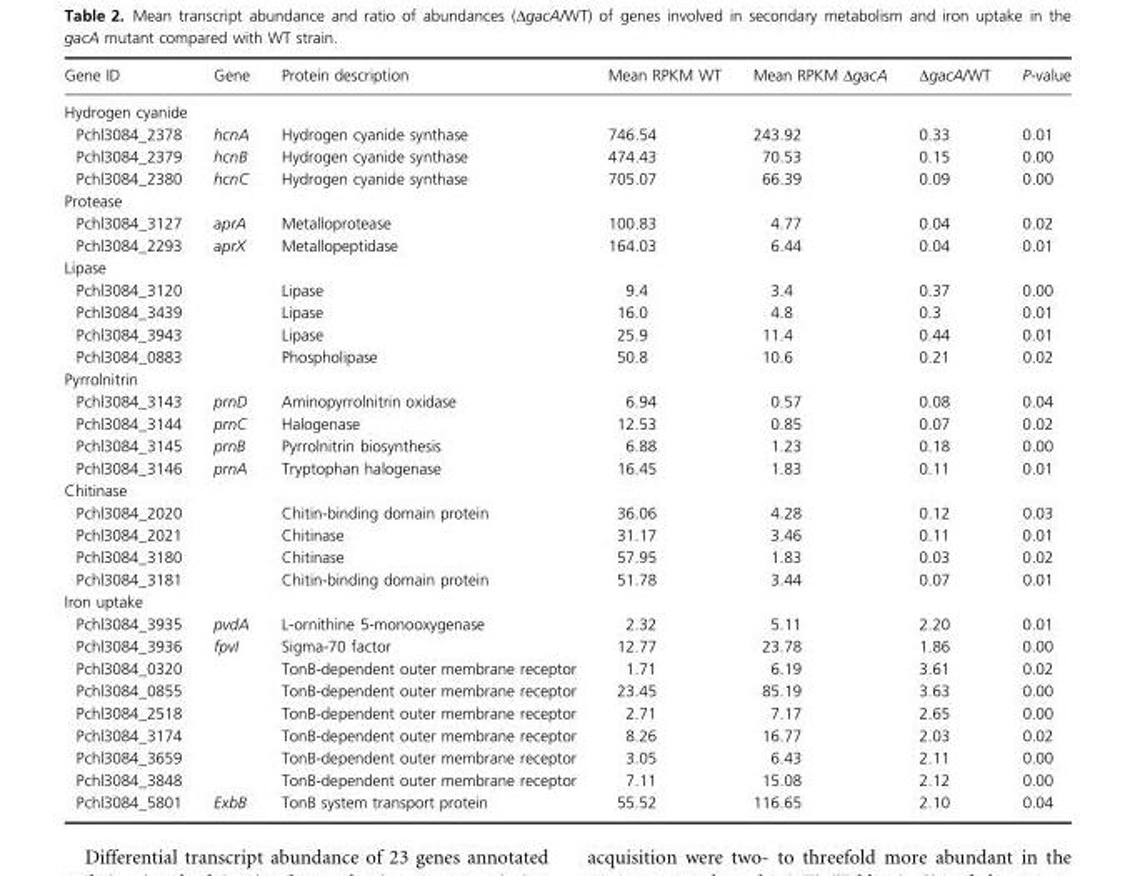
<table><thead><tr><td>Gene ID</td><td>Gene</td><td>Protein description</td><td>Mean RPKM WT</td><td>Mean RPKM ΔgacA</td><td>ΔgacA/WT</td><td>P-value</td></tr></thead><tbody><tr><td colspan="7">Hydrogen cyanide</td></tr><tr><td>Pchl3084_2378</td><td>hcnA</td><td>Hydrogen cyanide synthase</td><td>746.54</td><td>243.92</td><td>0.33</td><td>0.01</td></tr><tr><td>Pchl3084_2379</td><td>hcnB</td><td>Hydrogen cyanide synthase</td><td>474.43</td><td>70.53</td><td>0.15</td><td>0.00</td></tr><tr><td>Pchl3084_2380</td><td>hcnC</td><td>Hydrogen cyanide synthase</td><td>705.07</td><td>66.39</td><td>0.09</td><td>0.00</td></tr><tr><td colspan="7">Protease</td></tr><tr><td>Pchl3084_3127</td><td>aprA</td><td>Metalloprotease</td><td>100.83</td><td>4.77</td><td>0.04</td><td>0.02</td></tr><tr><td>Pchl3084_2293</td><td>aprX</td><td>Metallopeptidase</td><td>164.03</td><td>6.44</td><td>0.04</td><td>0.01</td></tr><tr><td colspan="7">Lipase</td></tr><tr><td>Pchl3084_3120</td><td></td><td>Lipase</td><td>9.4</td><td>3.4</td><td>0.37</td><td>0.00</td></tr><tr><td>Pchl3084_3439</td><td></td><td>Lipase</td><td>16.0</td><td>4.8</td><td>0.3</td><td>0.01</td></tr><tr><td>Pchl3084_3943</td><td></td><td>Lipase</td><td>25.9</td><td>11.4</td><td>0.44</td><td>0.01</td></tr><tr><td>Pchl3084_0883</td><td></td><td>Phospholipase</td><td>50.8</td><td>10.6</td><td>0.21</td><td>0.02</td></tr><tr><td colspan="7">Pyrrolnitrin</td></tr><tr><td>Pchl3084_3143</td><td>prnD</td><td>Aminopyrrolnitrin oxidase</td><td>6.94</td><td>0.57</td><td>0.08</td><td>0.04</td></tr><tr><td>Pchl3084_3144</td><td>prnC</td><td>Halogenase</td><td>12.53</td><td>0.85</td><td>0.07</td><td>0.02</td></tr><tr><td>Pchl3084_3145</td><td>prnB</td><td>Pyrrolnitrin biosynthesis</td><td>6.88</td><td>1.23</td><td>0.18</td><td>0.00</td></tr><tr><td>Pchl3084_3146</td><td>prnA</td><td>Tryptophan halogenase</td><td>16.45</td><td>1.83</td><td>0.11</td><td>0.01</td></tr><tr><td colspan="7">Chitinase</td></tr><tr><td>Pchl3084_2020</td><td></td><td>Chitin-binding domain protein</td><td>36.06</td><td>4.28</td><td>0.12</td><td>0.03</td></tr><tr><td>Pchl3084_2021</td><td></td><td>Chitinase</td><td>31.17</td><td>3.46</td><td>0.11</td><td>0.01</td></tr><tr><td>Pchl3084_3180</td><td></td><td>Chitinase</td><td>57.95</td><td>1.83</td><td>0.03</td><td>0.02</td></tr><tr><td>Pchl3084_3181</td><td></td><td>Chitin-binding domain protein</td><td>51.78</td><td>3.44</td><td>0.07</td><td>0.01</td></tr><tr><td colspan="7">Iron uptake</td></tr><tr><td>Pchl3084_3935</td><td>pvdA</td><td>L-ornithine 5-monooxygenase</td><td>2.32</td><td>5.11</td><td>2.20</td><td>0.01</td></tr><tr><td>Pchl3084_3936</td><td>fpvI</td><td>Sigma-70 factor</td><td>12.77</td><td>23.78</td><td>1.86</td><td>0.00</td></tr><tr><td>Pchl3084_0320</td><td></td><td>TonB-dependent outer membrane receptor</td><td>1.71</td><td>6.19</td><td>3.61</td><td>0.02</td></tr><tr><td>Pchl3084_0855</td><td></td><td>TonB-dependent outer membrane receptor</td><td>23.45</td><td>85.19</td><td>3.63</td><td>0.00</td></tr><tr><td>Pchl3084_2518</td><td></td><td>TonB-dependent outer membrane receptor</td><td>2.71</td><td>7.17</td><td>2.65</td><td>0.00</td></tr><tr><td>Pchl3084_3174</td><td></td><td>TonB-dependent outer membrane receptor</td><td>8.26</td><td>16.77</td><td>2.03</td><td>0.02</td></tr><tr><td>Pchl3084_3659</td><td></td><td>TonB-dependent outer membrane receptor</td><td>3.05</td><td>6.43</td><td>2.11</td><td>0.00</td></tr><tr><td>Pchl3084_3848</td><td></td><td>TonB-dependent outer membrane receptor</td><td>7.11</td><td>15.08</td><td>2.12</td><td>0.00</td></tr><tr><td>Pchl3084_5801</td><td>ExbB</td><td>TonB system transport protein</td><td>55.52</td><td>116.65</td><td>2.10</td><td>0.04</td></tr></tbody></table>